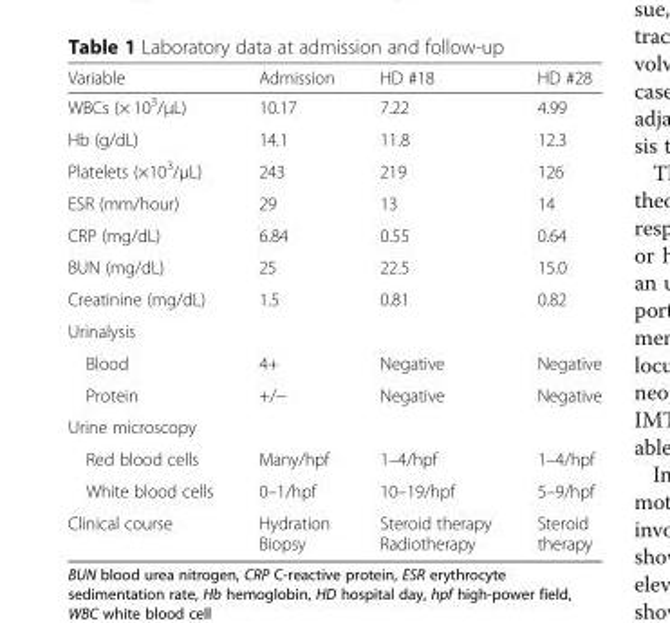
<table><thead><tr><td>Variable</td><td>Admission</td><td>HD #18</td><td>HD #28</td></tr></thead><tbody><tr><td>WBCs (× 10<sup>3</sup>/μL)</td><td>10.17</td><td>7.22</td><td>4.99</td></tr><tr><td>Hb (g/dL)</td><td>14.1</td><td>11.8</td><td>12.3</td></tr><tr><td>Platelets (×10<sup>3</sup>/μL)</td><td>243</td><td>219</td><td>126</td></tr><tr><td>ESR (mm/hour)</td><td>29</td><td>13</td><td>14</td></tr><tr><td>CRP (mg/dL)</td><td>6.84</td><td>0.55</td><td>0.64</td></tr><tr><td>BUN (mg/dL)</td><td>25</td><td>22.5</td><td>15.0</td></tr><tr><td>Creatinine (mg/dL)</td><td>1.5</td><td>0.81</td><td>0.82</td></tr><tr><td colspan="4">Urinalysis</td></tr><tr><td>Blood</td><td>4+</td><td>Negative</td><td>Negative</td></tr><tr><td>Protein</td><td>+/−</td><td>Negative</td><td>Negative</td></tr><tr><td colspan="4">Urine microscopy</td></tr><tr><td>Red blood cells</td><td>Many/hpf</td><td>1–4/hpf</td><td>1–4/hpf</td></tr><tr><td>White blood cells</td><td>0–1/hpf</td><td>10–19/hpf</td><td>5–9/hpf</td></tr><tr><td>Clinical course</td><td>Hydration Biopsy</td><td>Steroid therapy Radiotherapy</td><td>Steroid therapy</td></tr></tbody></table>